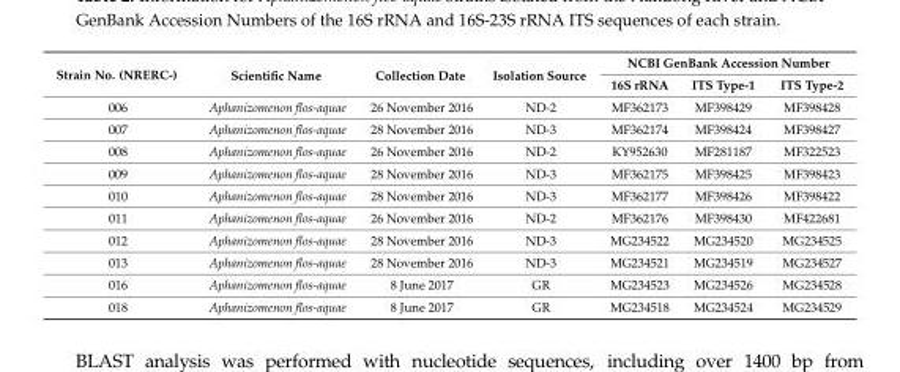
<table><thead><tr><td rowspan="2">Strain No. (NRERC-)</td><td rowspan="2">Scientific Name</td><td rowspan="2">Collection Date</td><td rowspan="2">Isolation Source</td><td colspan="3">NCBI GenBank Accession Number</td></tr><tr><td>16S rRNA</td><td>ITS Type-1</td><td>ITS Type-2</td></tr></thead><tbody><tr><td>006</td><td>Aphanizomenon flos-aquae</td><td>26 November 2016</td><td>ND-2</td><td>MF362173</td><td>MF398429</td><td>MF398428</td></tr><tr><td>007</td><td>Aphanizomenon flos-aquae</td><td>28 November 2016</td><td>ND-3</td><td>MF362174</td><td>MF398424</td><td>MF398427</td></tr><tr><td>008</td><td>Aphanizomenon flos-aquae</td><td>26 November 2016</td><td>ND-2</td><td>KY952630</td><td>MF281187</td><td>MF322523</td></tr><tr><td>009</td><td>Aphanizomenon flos-aquae</td><td>28 November 2016</td><td>ND-3</td><td>MF362175</td><td>MF398425</td><td>MF398423</td></tr><tr><td>010</td><td>Aphanizomenon flos-aquae</td><td>28 November 2016</td><td>ND-3</td><td>MF362177</td><td>MF398426</td><td>MF398422</td></tr><tr><td>011</td><td>Aphanizomenon flos-aquae</td><td>26 November 2016</td><td>ND-2</td><td>MF362176</td><td>MF398430</td><td>MF422681</td></tr><tr><td>012</td><td>Aphanizomenon flos-aquae</td><td>28 November 2016</td><td>ND-3</td><td>MG234522</td><td>MG234520</td><td>MG234525</td></tr><tr><td>013</td><td>Aphanizomenon flos-aquae</td><td>28 November 2016</td><td>ND-3</td><td>MG234521</td><td>MG234519</td><td>MG234527</td></tr><tr><td>016</td><td>Aphanizomenon flos-aquae</td><td>8 June 2017</td><td>GR</td><td>MG234523</td><td>MG234526</td><td>MG234528</td></tr><tr><td>018</td><td>Aphanizomenon flos-aquae</td><td>8 June 2017</td><td>GR</td><td>MG234518</td><td>MG234524</td><td>MG234529</td></tr></tbody></table>